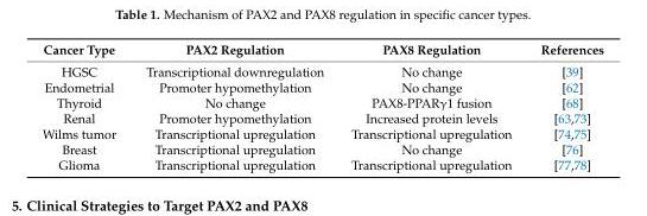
<table><thead><tr><td>Cancer Type</td><td>PAX2 Regulation</td><td>PAX8 Regulation</td><td>References</td></tr></thead><tbody><tr><td>HGSC</td><td>Transcriptional downregulation</td><td>No change</td><td>[39]</td></tr><tr><td>Endometrial</td><td>Promoter hypomethylation</td><td>No change</td><td>[62]</td></tr><tr><td>Thyroid</td><td>No change</td><td>PAX8-PPARγ1 fusion</td><td>[68]</td></tr><tr><td>Renal</td><td>Promoter hypomethylation</td><td>Increased protein levels</td><td>[63,73]</td></tr><tr><td>Wilms tumor</td><td>Transcriptional upregulation</td><td>Transcriptional upregulation</td><td>[74,75]</td></tr><tr><td>Breast</td><td>Transcriptional upregulation</td><td>No change</td><td>[76]</td></tr><tr><td>Glioma</td><td>Transcriptional upregulation</td><td>Transcriptional upregulation</td><td>[77,78]</td></tr></tbody></table>